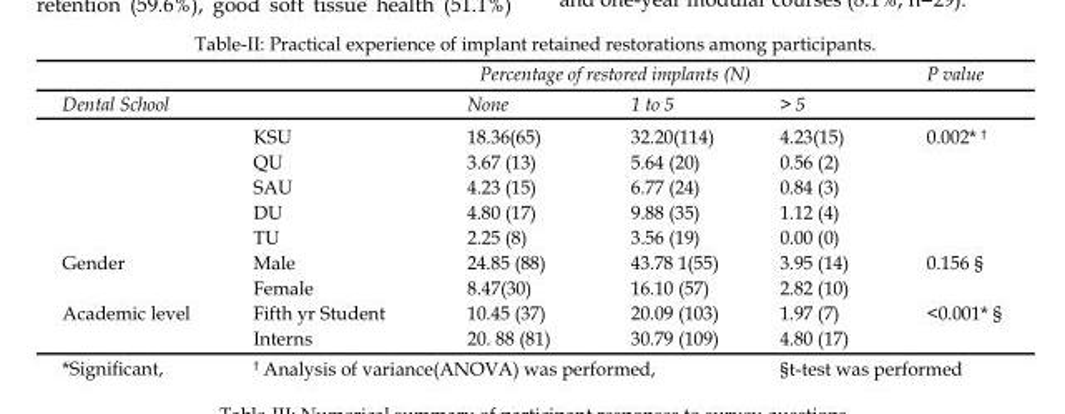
<table><thead><tr><td rowspan="2">Dental School</td><td rowspan="2"></td><td colspan="3">Percentage of restored implants (N)</td><td rowspan="2">P value</td></tr><tr><td>None</td><td>1 to 5</td><td>&gt; 5</td></tr></thead><tbody><tr><td rowspan="5"></td><td>KSU</td><td>18.36(65)</td><td>32.20(114)</td><td>4.23(15)</td><td rowspan="5">0.002* <sup>†</sup></td></tr><tr><td>QU</td><td>3.67 (13)</td><td>5.64 (20)</td><td>0.56 (2)</td></tr><tr><td>SAU</td><td>4.23 (15)</td><td>6.77 (24)</td><td>0.84 (3)</td></tr><tr><td>DU</td><td>4.80 (17)</td><td>9.88 (35)</td><td>1.12 (4)</td></tr><tr><td>TU</td><td>2.25 (8)</td><td>3.56 (19)</td><td>0.00 (0)</td></tr><tr><td rowspan="2">Gender</td><td>Male</td><td>24.85 (88)</td><td>43.78 1(55)</td><td>3.95 (14)</td><td rowspan="2">0.156 §</td></tr><tr><td>Female</td><td>8.47(30)</td><td>16.10 (57)</td><td>2.82 (10)</td></tr><tr><td rowspan="2">Academic level</td><td>Fifth yr Student</td><td>10.45 (37)</td><td>20.09 (103)</td><td>1.97 (7)</td><td rowspan="2">&lt;0.001* <sup>§</sup></td></tr><tr><td>Interns</td><td>20. 88 (81)</td><td>30.79 (109)</td><td>4.80 (17)</td></tr></tbody></table>